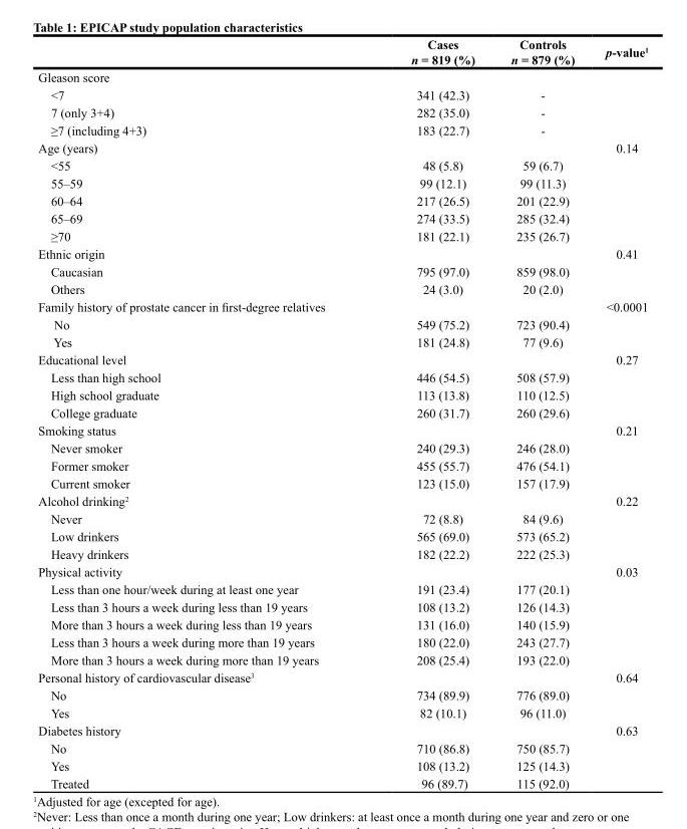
<table><thead><tr><td></td><td>Cases n = 819 (%)</td><td>Controls n = 879 (%)</td><td>p-value<sup>1</sup></td></tr></thead><tbody><tr><td colspan="4">Gleason score</td></tr><tr><td>&lt;7</td><td>341 (42.3)</td><td>-</td><td></td></tr><tr><td>7 (only 3+4)</td><td>282 (35.0)</td><td>-</td><td></td></tr><tr><td>≥7 (including 4+3)</td><td>183 (22.7)</td><td>-</td><td></td></tr><tr><td>Age (years)</td><td></td><td></td><td>0.14</td></tr><tr><td>&lt;55</td><td>48 (5.8)</td><td>59 (6.7)</td><td></td></tr><tr><td>55–59</td><td>99 (12.1)</td><td>99 (11.3)</td><td></td></tr><tr><td>60–64</td><td>217 (26.5)</td><td>201 (22.9)</td><td></td></tr><tr><td>65–69</td><td>274 (33.5)</td><td>285 (32.4)</td><td></td></tr><tr><td>≥70</td><td>181 (22.1)</td><td>235 (26.7)</td><td></td></tr><tr><td>Ethnic origin</td><td></td><td></td><td>0.41</td></tr><tr><td>Caucasian</td><td>795 (97.0)</td><td>859 (98.0)</td><td></td></tr><tr><td>Others</td><td>24 (3.0)</td><td>20 (2.0)</td><td></td></tr><tr><td>Family history of prostate cancer in first-degree relatives</td><td></td><td></td><td>&lt;0.0001</td></tr><tr><td>No</td><td>549 (75.2)</td><td>723 (90.4)</td><td></td></tr><tr><td>Yes</td><td>181 (24.8)</td><td>77 (9.6)</td><td></td></tr><tr><td>Educational level</td><td></td><td></td><td>0.27</td></tr><tr><td>Less than high school</td><td>446 (54.5)</td><td>508 (57.9)</td><td></td></tr><tr><td>High school graduate</td><td>113 (13.8)</td><td>110 (12.5)</td><td></td></tr><tr><td>College graduate</td><td>260 (31.7)</td><td>260 (29.6)</td><td></td></tr><tr><td>Smoking status</td><td></td><td></td><td>0.21</td></tr><tr><td>Never smoker</td><td>240 (29.3)</td><td>246 (28.0)</td><td></td></tr><tr><td>Former smoker</td><td>455 (55.7)</td><td>476 (54.1)</td><td></td></tr><tr><td>Current smoker</td><td>123 (15.0)</td><td>157 (17.9)</td><td></td></tr><tr><td>Alcohol drinking<sup>2</sup></td><td></td><td></td><td>0.22</td></tr><tr><td>Never</td><td>72 (8.8)</td><td>84 (9.6)</td><td></td></tr><tr><td>Low drinkers</td><td>565 (69.0)</td><td>573 (65.2)</td><td></td></tr><tr><td>Heavy drinkers</td><td>182 (22.2)</td><td>222 (25.3)</td><td></td></tr><tr><td>Physical activity</td><td></td><td></td><td>0.03</td></tr><tr><td>Less than one hour/week during at least one year</td><td>191 (23.4)</td><td>177 (20.1)</td><td></td></tr><tr><td>Less than 3 hours a week during less than 19 years</td><td>108 (13.2)</td><td>126 (14.3)</td><td></td></tr><tr><td>More than 3 hours a week during less than 19 years</td><td>131 (16.0)</td><td>140 (15.9)</td><td></td></tr><tr><td>Less than 3 hours a week during more than 19 years</td><td>180 (22.0)</td><td>243 (27.7)</td><td></td></tr><tr><td>More than 3 hours a week during more than 19 years</td><td>208 (25.4)</td><td>193 (22.0)</td><td></td></tr><tr><td>Personal history of cardiovascular disease<sup>3</sup></td><td></td><td></td><td>0.64</td></tr><tr><td>No</td><td>734 (89.9)</td><td>776 (89.0)</td><td></td></tr><tr><td>Yes</td><td>82 (10.1)</td><td>96 (11.0)</td><td></td></tr><tr><td>Diabetes history</td><td></td><td></td><td>0.63</td></tr><tr><td>No</td><td>710 (86.8)</td><td>750 (85.7)</td><td></td></tr><tr><td>Yes</td><td>108 (13.2)</td><td>125 (14.3)</td><td></td></tr><tr><td>Treated</td><td>96 (89.7)</td><td>115 (92.0)</td><td></td></tr></tbody></table>